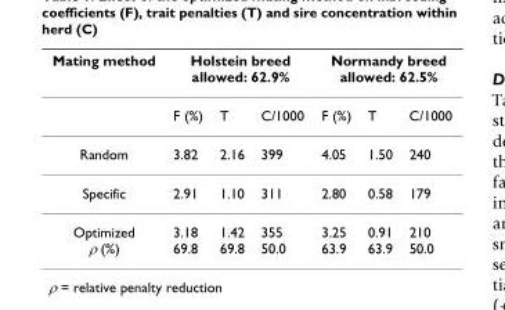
<table><thead><tr><td rowspan="2">Mating method</td><td colspan="3">Holstein breed allowed: 62.9%</td><td colspan="3">Normandy breed allowed: 62.5%</td></tr><tr><td>F (%)</td><td>T</td><td>C/1000</td><td>F (%)</td><td>T</td><td>C/1000</td></tr></thead><tbody><tr><td>Random</td><td>3.82</td><td>2.16</td><td>399</td><td>4.05</td><td>1.50</td><td>240</td></tr><tr><td>Specific</td><td>2.91</td><td>1.10</td><td>311</td><td>2.80</td><td>0.58</td><td>179</td></tr><tr><td>Optimized ρ (%)</td><td>3.18 69.8</td><td>1.42 69.8</td><td>355 50.0</td><td>3.25 63.9</td><td>0.91 63.9</td><td>210 50.0</td></tr></tbody></table>